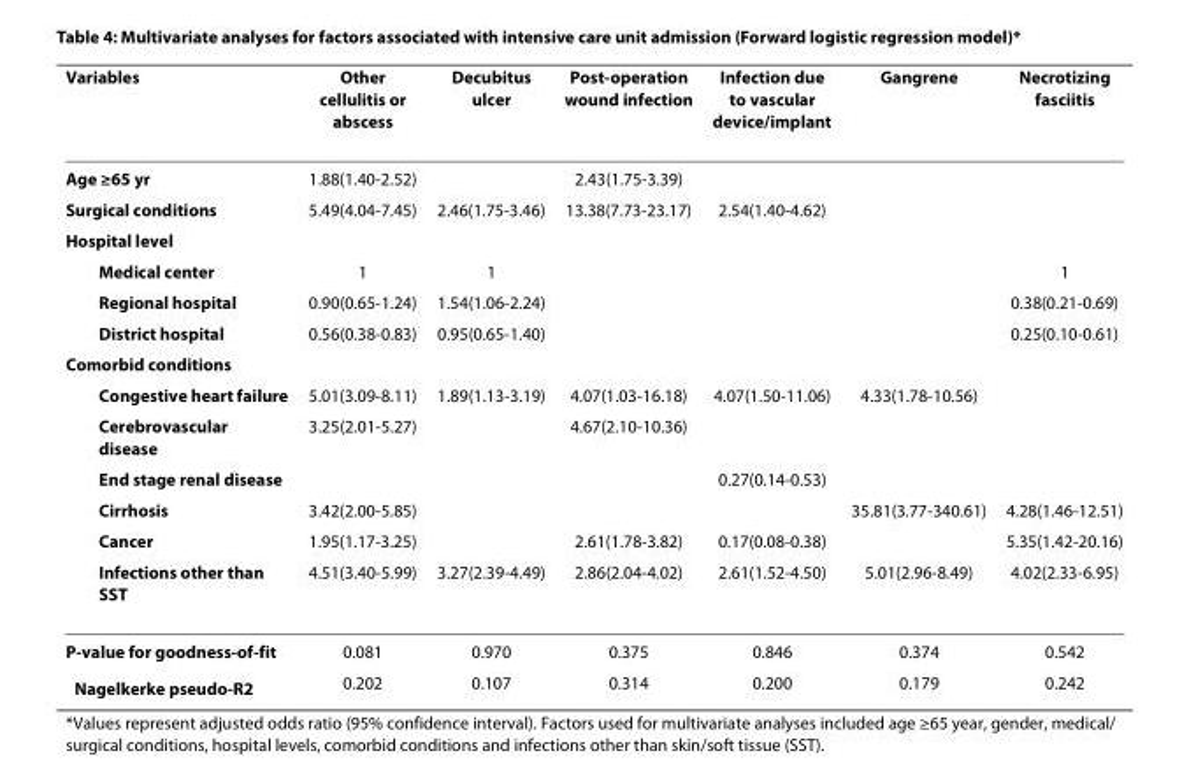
<table><thead><tr><td>Variables</td><td>Other cellulitis or abscess</td><td>Decubitus ulcer</td><td>Post-operation wound infection</td><td>Infection due to vascular device/implant</td><td>Gangrene</td><td>Necrotizing fasciitis</td></tr></thead><tbody><tr><td>Age ≥65 yr</td><td>1.88(1.40-2.52)</td><td></td><td>2.43(1.75-3.39)</td><td></td><td></td><td></td></tr><tr><td>Surgical conditions</td><td>5.49(4.04-7.45)</td><td>2.46(1.75-3.46)</td><td>13.38(7.73-23.17)</td><td>2.54(1.40-4.62)</td><td></td><td></td></tr><tr><td colspan="7">Hospital level</td></tr><tr><td>Medical center</td><td>1</td><td>1</td><td></td><td></td><td></td><td>1</td></tr><tr><td>Regional hospital</td><td>0.90(0.65-1.24)</td><td>1.54(1.06-2.24)</td><td></td><td></td><td></td><td>0.38(0.21-0.69)</td></tr><tr><td>District hospital</td><td>0.56(0.38-0.83)</td><td>0.95(0.65-1.40)</td><td></td><td></td><td></td><td>0.25(0.10-0.61)</td></tr><tr><td colspan="7">Comorbid conditions</td></tr><tr><td>Congestive heart failure</td><td>5.01(3.09-8.11)</td><td>1.89(1.13-3.19)</td><td>4.07(1.03-16.18)</td><td>4.07(1.50-11.06)</td><td>4.33(1.78-10.56)</td><td></td></tr><tr><td>Cerebrovascular disease</td><td>3.25(2.01-5.27)</td><td></td><td>4.67(2.10-10.36)</td><td></td><td></td><td></td></tr><tr><td>End stage renal disease</td><td></td><td></td><td></td><td>0.27(0.14-0.53)</td><td></td><td></td></tr><tr><td>Cirrhosis</td><td>3.42(2.00-5.85)</td><td></td><td></td><td></td><td>35.81(3.77-340.61)</td><td>4.28(1.46-12.51)</td></tr><tr><td>Cancer</td><td>1.95(1.17-3.25)</td><td></td><td>2.61(1.78-3.82)</td><td>0.17(0.08-0.38)</td><td></td><td>5.35(1.42-20.16)</td></tr><tr><td>Infections other than SST</td><td>4.51(3.40-5.99)</td><td>3.27(2.39-4.49)</td><td>2.86(2.04-4.02)</td><td>2.61(1.52-4.50)</td><td>5.01(2.96-8.49)</td><td>4.02(2.33-6.95)</td></tr><tr><td>P-value for goodness-of-fit</td><td>0.081</td><td>0.970</td><td>0.375</td><td>0.846</td><td>0.374</td><td>0.542</td></tr><tr><td>Nagelkerke pseudo-R<sup>2</sup></td><td>0.202</td><td>0.107</td><td>0.314</td><td>0.200</td><td>0.179</td><td>0.242</td></tr></tbody></table>